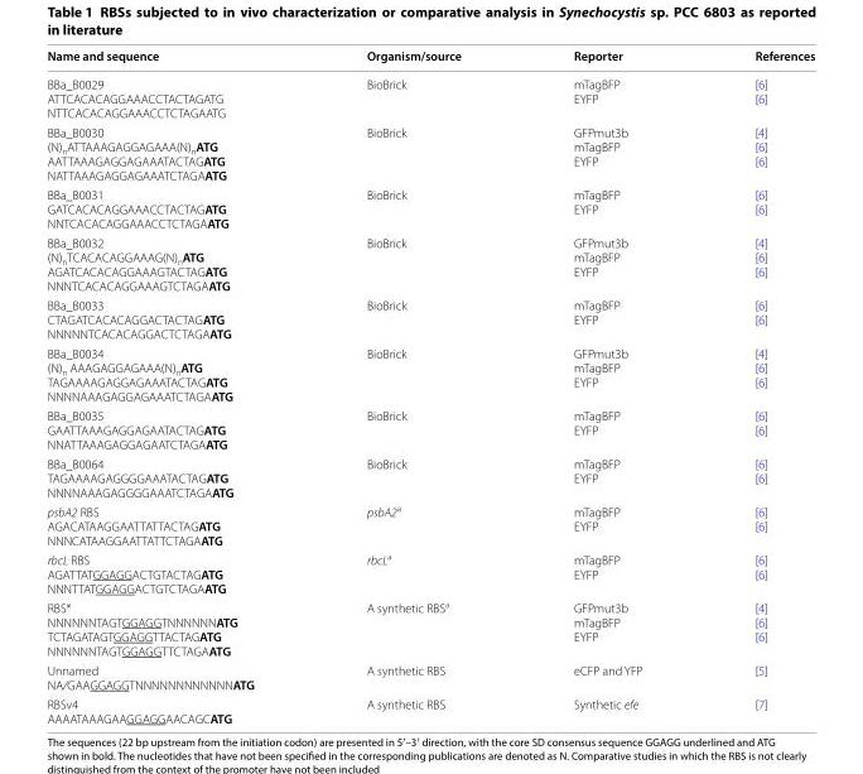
<table><thead><tr><td>Name and sequence</td><td>Organism/source</td><td>Reporter</td><td>References</td></tr></thead><tbody><tr><td>BBa_B0029 ATT CAC ACA GGA AAC CTA CTA GAT G NTTC ACA CAG GAA ACC TCT AGA ATG</td><td>BioBrick</td><td>mTagBFP EYFP</td><td>[6] [6]</td></tr><tr><td>BBa_B0030 (N)<sub>n</sub>ATT AAA GAG GAG AAA(N)<sub>n</sub>ATG AAT TAA AGA GGA GAA ATA CTAG ATG NATT AAA GAG GAG AAA TCT AGA ATG</td><td>BioBrick</td><td>GFPmut3b mTagBFP EYFP</td><td>[4] [6] [6]</td></tr><tr><td>BBa_B0031 GAT CAC ACA GGA AAC CTA CTAG ATG NNTCA CAC AGG AAA CCT CTA GAATG</td><td>BioBrick</td><td>mTagBFP EYFP</td><td>[6] [6]</td></tr><tr><td>BBa_B0032 (N)<sub>n</sub>TCA CAC AGG AAA G(N)<sub>n</sub>ATG AGA TCA CAC AGG AAA GTA CTAG ATG NNNTCA CAC AGG AAA GTC TAG AATG</td><td>BioBrick</td><td>GFPmut3b mTagBFP EYFP</td><td>[4] [6] [6]</td></tr><tr><td>BBa_B0033 CTA GAT CAC ACA GGA CTA CTAG ATG NNNNNTCA CAC AGG ACT CTAGA ATG</td><td>BioBrick</td><td>mTagBFP EYFP</td><td>[6] [6]</td></tr><tr><td>BBa_B0034 (N)<sub>n</sub> AAA GAG GAG AAA (N)<sub>n</sub>ATG TAG AAA AGA GGA GAA ATA CTAG ATG NNNNAAA GAG GAG AAA TCT AGA ATG</td><td>BioBrick</td><td>GFPmut3b mTagBFP EYFP</td><td>[4] [6] [6]</td></tr><tr><td>BBa_B0035 GAA TTA AAG AGG AGA ATA CTAG ATG NNATT AAA GAG GAG AAT CTA GAATG</td><td>BioBrick</td><td>mTagBFP EYFP</td><td>[6] [6]</td></tr><tr><td>BBa_B0064 TAG AAA AGA GGG GAA ATA CTAG ATG NNNNAAA GAG GGG AAA TCT AGA ATG</td><td>BioBrick</td><td>mTagBFP EYFP</td><td>[6] [6]</td></tr><tr><td>psbA2 RBS AGA CAT AAG GAA TTA TTA CTAG ATG NNNCAT AAG GAA TTA TTC TAG AATG</td><td>psbA2<sup>a</sup></td><td>mTagBFP EYFP</td><td>[6] [6]</td></tr><tr><td>rbcL RBS AGA TTA TGGAGG ACT GTA CTAG ATG NNNTTAT GGAGG ACT GTC TAGA ATG</td><td>rbcL<sup>a</sup></td><td>mTagBFP EYFP</td><td>[6] [6]</td></tr><tr><td>RBS* NNNNNNTAGT GGAGG TNNNNNNATG TCT AGA TAGT GGAGG TTA CTA GATG NNNNNNTAGT GGAGG TTC TAG AATG</td><td>A synthetic RBS<sup>a</sup></td><td>GFPmut3b mTagBFP EYFP</td><td>[4] [6] [6]</td></tr><tr><td>Unnamed NA/GAA GGAGG TNNNNNNNNNNNNATG</td><td>A synthetic RBS</td><td>eCFP and YFP</td><td>[5]</td></tr><tr><td>RBSv4 AAA ATA AAGAA GGAGG AAC AGC ATG</td><td>A synthetic RBS</td><td>Synthetic efe</td><td>[7]</td></tr></tbody></table>